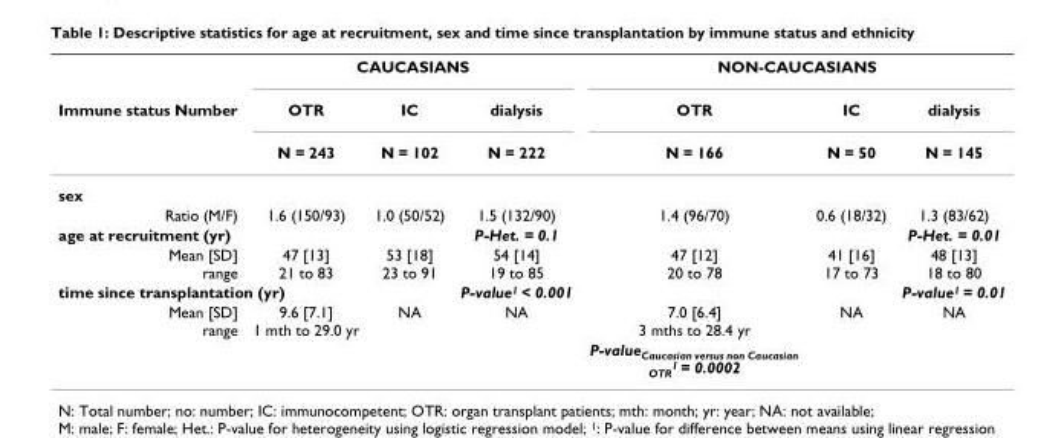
<table><thead><tr><td rowspan="3">Immune status Number</td><td colspan="3">CAUCASIANS</td><td colspan="3">NON-CAUCASIANS</td></tr><tr><td rowspan="2">OTR N = 243</td><td rowspan="2">IC N = 102</td><td rowspan="2">dialysis N = 222</td><td rowspan="2">OTR N = 166</td><td rowspan="2">IC N = 50</td><td rowspan="2">dialysis N = 145</td></tr><tr></tr></thead><tbody><tr><td colspan="7">sex</td></tr><tr><td>Ratio (M/F)</td><td>1.6 (150/93)</td><td>1.0 (50/52)</td><td>1.5 (132/90)</td><td>1.4 (96/70)</td><td>0.6 (18/32)</td><td>1.3 (83/62)</td></tr><tr><td colspan="3">age at recruitment (yr)</td><td>P-Het. = 0.1</td><td></td><td></td><td>P-Het. = 0.01</td></tr><tr><td>Mean [SD] range</td><td>47 [13] 21 to 83</td><td>53 [18] 23 to 91</td><td>54 [14] 19 to 85</td><td>47 [12] 20 to 78</td><td>41 [16] 17 to 73</td><td>48 [13] 18 to 80</td></tr><tr><td colspan="3">time since transplantation (yr)</td><td>P-value<sup>1</sup> &lt; 0.001</td><td></td><td></td><td>P-value<sup>1</sup> = 0.01</td></tr><tr><td rowspan="2">Mean [SD] range</td><td>9.6 [7.1] 1 mth to 29.0 yr</td><td>NA</td><td>NA</td><td>7.0 [6.4] 3 mths to 28.4 yr</td><td>NA</td><td>NA</td></tr><tr><td></td><td></td><td></td><td>P-value<sub>Caucasian versus non Caucasian OTR</sub><sup>1</sup> = 0.0002</td><td></td><td></td></tr></tbody></table>